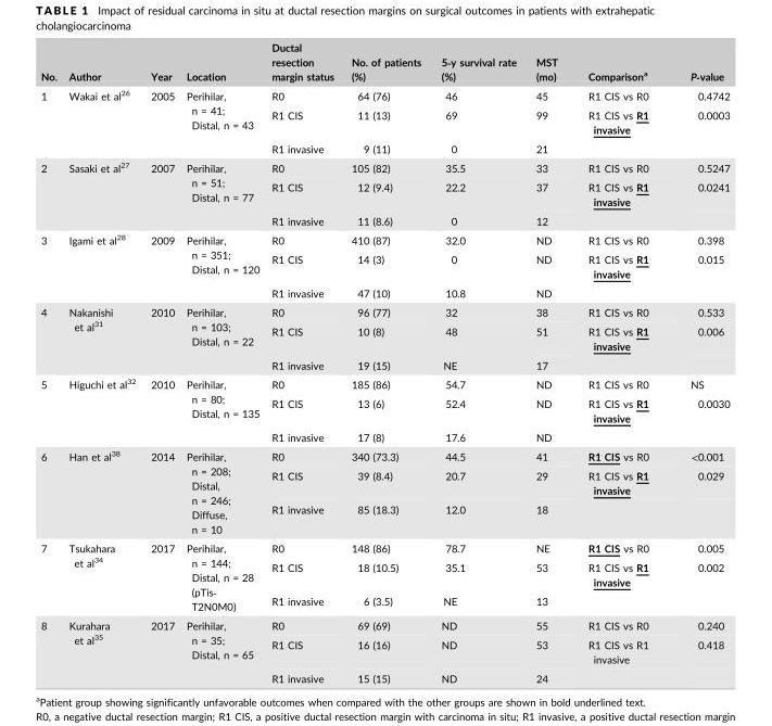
<table><thead><tr><td>No.</td><td>Author</td><td>Year</td><td>Location</td><td>Ductal resection margin status</td><td>No. of patients (%)</td><td>5‐y survival rate (%)</td><td>MST (mo)</td><td>Comparison<sup>a</sup></td><td>P‐value</td></tr></thead><tbody><tr><td rowspan="3">1</td><td rowspan="3">Wakai et al<sup>26</sup></td><td rowspan="3">2005</td><td rowspan="3">Perihilar, n = 41; Distal, n = 43</td><td>R0</td><td>64 (76)</td><td>46</td><td>45</td><td>R1 CIS vs R0</td><td>0.4742</td></tr><tr><td>R1 CIS</td><td>11 (13)</td><td>69</td><td>99</td><td>R1 CIS vs R1 invasive</td><td>0.0003</td></tr><tr><td>R1 invasive</td><td>9 (11)</td><td>0</td><td>21</td><td></td><td></td></tr><tr><td rowspan="3">2</td><td rowspan="3">Sasaki et al<sup>27</sup></td><td rowspan="3">2007</td><td rowspan="3">Perihilar, n = 51; Distal, n = 77</td><td>R0</td><td>105 (82)</td><td>35.5</td><td>33</td><td>R1 CIS vs R0</td><td>0.5247</td></tr><tr><td>R1 CIS</td><td>12 (9.4)</td><td>22.2</td><td>37</td><td>R1 CIS vs R1 invasive</td><td>0.0241</td></tr><tr><td>R1 invasive</td><td>11 (8.6)</td><td>0</td><td>12</td><td></td><td></td></tr><tr><td rowspan="3">3</td><td rowspan="3">Igami et al<sup>28</sup></td><td rowspan="3">2009</td><td rowspan="3">Perihilar, n = 351; Distal, n = 120</td><td>R0</td><td>410 (87)</td><td>32.0</td><td>ND</td><td>R1 CIS vs R0</td><td>0.398</td></tr><tr><td>R1 CIS</td><td>14 (3)</td><td>0</td><td>ND</td><td>R1 CIS vs R1 invasive</td><td>0.015</td></tr><tr><td>R1 invasive</td><td>47 (10)</td><td>10.8</td><td>ND</td><td></td><td></td></tr><tr><td rowspan="3">4</td><td rowspan="3">Nakanishi et al<sup>31</sup></td><td rowspan="3">2010</td><td rowspan="3">Perihilar, n = 103; Distal, n = 22</td><td>R0</td><td>96 (77)</td><td>32</td><td>38</td><td>R1 CIS vs R0</td><td>0.533</td></tr><tr><td>R1 CIS</td><td>10 (8)</td><td>48</td><td>51</td><td>R1 CIS vs R1 invasive</td><td>0.006</td></tr><tr><td>R1 invasive</td><td>19 (15)</td><td>NE</td><td>17</td><td></td><td></td></tr><tr><td rowspan="3">5</td><td rowspan="3">Higuchi et al<sup>32</sup></td><td rowspan="3">2010</td><td rowspan="3">Perihilar, n = 80; Distal, n = 135</td><td>R0</td><td>185 (86)</td><td>54.7</td><td>ND</td><td>R1 CIS vs R0</td><td>NS</td></tr><tr><td>R1 CIS</td><td>13 (6)</td><td>52.4</td><td>ND</td><td>R1 CIS vs R1 invasive</td><td>0.0030</td></tr><tr><td>R1 invasive</td><td>17 (8)</td><td>17.6</td><td>ND</td><td></td><td></td></tr><tr><td rowspan="3">6</td><td rowspan="3">Han et al<sup>38</sup></td><td rowspan="3">2014</td><td rowspan="3">Perihilar, n = 208; Distal, n = 246; Diffuse, n = 10</td><td>R0</td><td>340 (73.3)</td><td>44.5</td><td>41</td><td>R1 CIS vs R0</td><td>&lt;0.001</td></tr><tr><td>R1 CIS</td><td>39 (8.4)</td><td>20.7</td><td>29</td><td>R1 CIS vs R1 invasive</td><td>0.029</td></tr><tr><td>R1 invasive</td><td>85 (18.3)</td><td>12.0</td><td>18</td><td></td><td></td></tr><tr><td rowspan="3">7</td><td rowspan="3">Tsukahara et al<sup>34</sup></td><td rowspan="3">2017</td><td rowspan="3">Perihilar, n = 144; Distal, n = 28 (pTis‐ T2N0M0)</td><td>R0</td><td>148 (86)</td><td>78.7</td><td>NE</td><td>R1 CIS vs R0</td><td>0.005</td></tr><tr><td>R1 CIS</td><td>18 (10.5)</td><td>35.1</td><td>53</td><td>R1 CIS vs R1 invasive</td><td>0.002</td></tr><tr><td>R1 invasive</td><td>6 (3.5)</td><td>NE</td><td>13</td><td></td><td></td></tr><tr><td rowspan="3">8</td><td rowspan="3">Kurahara et al<sup>35</sup></td><td rowspan="3">2017</td><td rowspan="3">Perihilar, n = 35; Distal, n = 65</td><td>R0</td><td>69 (69)</td><td>ND</td><td>55</td><td>R1 CIS vs R0</td><td>0.240</td></tr><tr><td>R1 CIS</td><td>16 (16)</td><td>ND</td><td>53</td><td>R1 CIS vs R1 invasive</td><td>0.418</td></tr><tr><td>R1 invasive</td><td>15 (15)</td><td>ND</td><td>24</td><td></td><td></td></tr></tbody></table>